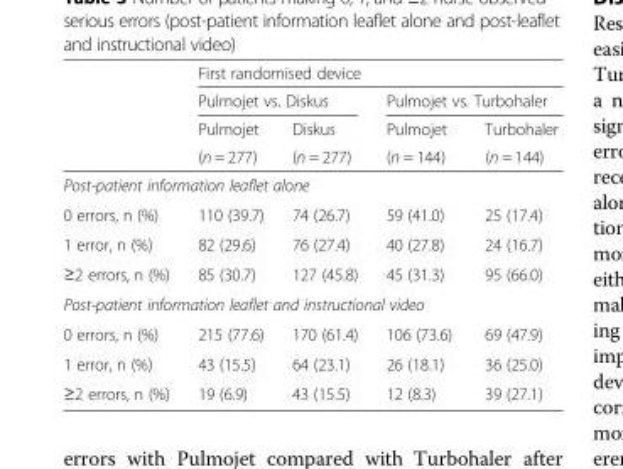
<table><thead><tr><td rowspan="4"></td><td colspan="4">First randomised device</td></tr><tr><td colspan="2">Pulmojet vs. Diskus</td><td colspan="2">Pulmojet vs. Turbohaler</td></tr><tr><td rowspan="2">Pulmojet (n = 277)</td><td rowspan="2">Diskus (n = 277)</td><td rowspan="2">Pulmojet (n = 144)</td><td rowspan="2">Turbohaler (n = 144)</td></tr><tr></tr></thead><tbody><tr><td colspan="5">Post-patient information leaflet alone</td></tr><tr><td>0 errors, n (%)</td><td>110 (39.7)</td><td>74 (26.7)</td><td>59 (41.0)</td><td>25 (17.4)</td></tr><tr><td>1 error, n (%)</td><td>82 (29.6)</td><td>76 (27.4)</td><td>40 (27.8)</td><td>24 (16.7)</td></tr><tr><td>≥2 errors, n (%)</td><td>85 (30.7)</td><td>127 (45.8)</td><td>45 (31.3)</td><td>95 (66.0)</td></tr><tr><td colspan="5">Post-patient information leaflet and instructional video</td></tr><tr><td>0 errors, n (%)</td><td>215 (77.6)</td><td>170 (61.4)</td><td>106 (73.6)</td><td>69 (47.9)</td></tr><tr><td>1 error, n (%)</td><td>43 (15.5)</td><td>64 (23.1)</td><td>26 (18.1)</td><td>36 (25.0)</td></tr><tr><td>≥2 errors, n (%)</td><td>19 (6.9)</td><td>43 (15.5)</td><td>12 (8.3)</td><td>39 (27.1)</td></tr></tbody></table>